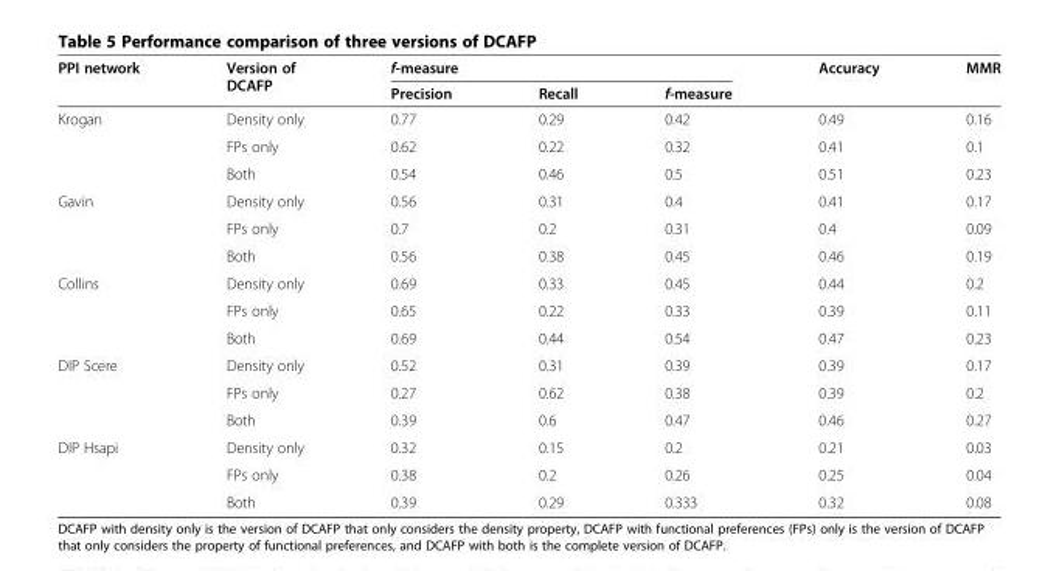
<table><thead><tr><td rowspan="2">PPI network</td><td rowspan="2">Version of DCAFP</td><td colspan="3">f-measure</td><td rowspan="2">Accuracy</td><td rowspan="2">MMR</td></tr><tr><td>Precision</td><td>Recall</td><td>f-measure</td></tr></thead><tbody><tr><td rowspan="3">Krogan</td><td>Density only</td><td>0.77</td><td>0.29</td><td>0.42</td><td>0.49</td><td>0.16</td></tr><tr><td>FPs only</td><td>0.62</td><td>0.22</td><td>0.32</td><td>0.41</td><td>0.1</td></tr><tr><td>Both</td><td>0.54</td><td>0.46</td><td>0.5</td><td>0.51</td><td>0.23</td></tr><tr><td rowspan="3">Gavin</td><td>Density only</td><td>0.56</td><td>0.31</td><td>0.4</td><td>0.41</td><td>0.17</td></tr><tr><td>FPs only</td><td>0.7</td><td>0.2</td><td>0.31</td><td>0.4</td><td>0.09</td></tr><tr><td>Both</td><td>0.56</td><td>0.38</td><td>0.45</td><td>0.46</td><td>0.19</td></tr><tr><td rowspan="3">Collins</td><td>Density only</td><td>0.69</td><td>0.33</td><td>0.45</td><td>0.44</td><td>0.2</td></tr><tr><td>FPs only</td><td>0.65</td><td>0.22</td><td>0.33</td><td>0.39</td><td>0.11</td></tr><tr><td>Both</td><td>0.69</td><td>0.44</td><td>0.54</td><td>0.47</td><td>0.23</td></tr><tr><td rowspan="3">DIP Scere</td><td>Density only</td><td>0.52</td><td>0.31</td><td>0.39</td><td>0.39</td><td>0.17</td></tr><tr><td>FPs only</td><td>0.27</td><td>0.62</td><td>0.38</td><td>0.39</td><td>0.2</td></tr><tr><td>Both</td><td>0.39</td><td>0.6</td><td>0.47</td><td>0.46</td><td>0.27</td></tr><tr><td rowspan="3">DIP Hsapi</td><td>Density only</td><td>0.32</td><td>0.15</td><td>0.2</td><td>0.21</td><td>0.03</td></tr><tr><td>FPs only</td><td>0.38</td><td>0.2</td><td>0.26</td><td>0.25</td><td>0.04</td></tr><tr><td>Both</td><td>0.39</td><td>0.29</td><td>0.333</td><td>0.32</td><td>0.08</td></tr></tbody></table>